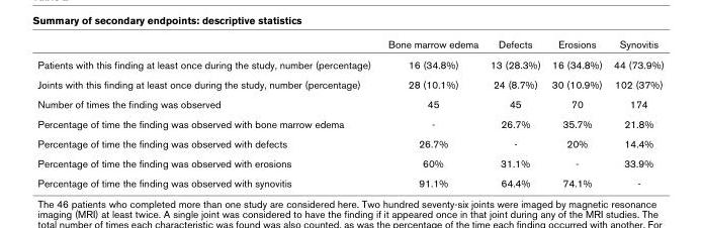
<table><thead><tr><td></td><td>Bone marrow edema</td><td>Defects</td><td>Erosions</td><td>Synovitis</td></tr></thead><tbody><tr><td>Patients with this finding at least once during the study, number (percentage)</td><td>16 (34.8%)</td><td>13 (28.3%)</td><td>16 (34.8%)</td><td>44 (73.9%)</td></tr><tr><td>Joints with this finding at least once during the study, number (percentage)</td><td>28 (10.1%)</td><td>24 (8.7%)</td><td>30 (10.9%)</td><td>102 (37%)</td></tr><tr><td>Number of times the finding was observed</td><td>45</td><td>45</td><td>70</td><td>174</td></tr><tr><td>Percentage of time the finding was observed with bone marrow edema</td><td>-</td><td>26.7%</td><td>35.7%</td><td>21.8%</td></tr><tr><td>Percentage of time the finding was observed with defects</td><td>26.7%</td><td>-</td><td>20%</td><td>14.4%</td></tr><tr><td>Percentage of time the finding was observed with erosions</td><td>60%</td><td>31.1%</td><td>-</td><td>33.9%</td></tr><tr><td>Percentage of time the finding was observed with synovitis</td><td>91.1%</td><td>64.4%</td><td>74.1%</td><td>-</td></tr></tbody></table>